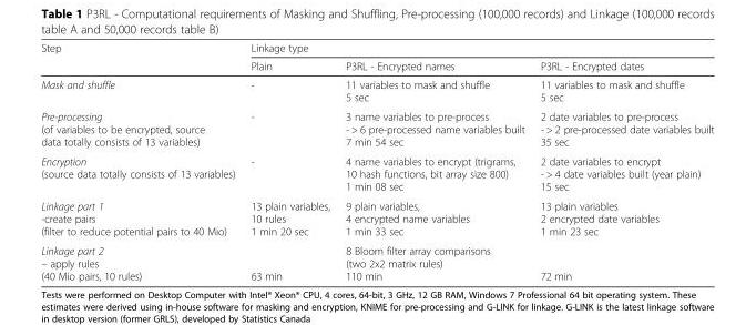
<table><thead><tr><td rowspan="2">Step</td><td colspan="3">Linkage type</td></tr><tr><td>Plain</td><td>P3RL - Encrypted names</td><td>P3RL - Encrypted dates</td></tr></thead><tbody><tr><td>Mask and shuffle</td><td>-</td><td>11 variables to mask and shuffle 5 sec</td><td>11 variables to mask and shuffle 5 sec</td></tr><tr><td>Pre-processing (of variables to be encrypted, source data totally consists of 13 variables)</td><td>-</td><td>3 name variables to pre-process - &gt; 6 pre-processed name variables built 7 min 54 sec</td><td>2 date variables to pre-process - &gt; 2 pre-processed date variables built 35 sec</td></tr><tr><td>Encryption (source data totally consists of 13 variables)</td><td>-</td><td>4 name variables to encrypt (trigrams, 10 hash functions, bit array size 800) 1 min 08 sec</td><td>2 date variables to encrypt - &gt; 4 date variables built (year plain) 15 sec</td></tr><tr><td>Linkage part 1 -create pairs (filter to reduce potential pairs to 40 Mio)</td><td>13 plain variables, 10 rules 1 min 20 sec</td><td>9 plain variables, 4 encrypted name variables 1 min 33 sec</td><td>13 plain variables 2 encrypted date variables 1 min 23 sec</td></tr><tr><td>Linkage part 2 – apply rules (40 Mio pairs, 10 rules)</td><td>63 min</td><td>8 Bloom filter array comparisons (two 2x2 matrix rules) 110 min</td><td>72 min</td></tr></tbody></table>